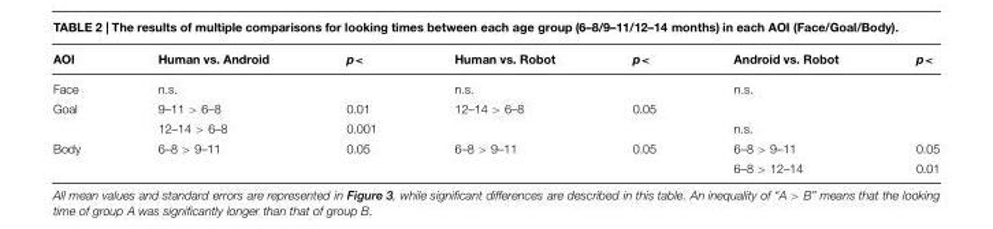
<table><thead><tr><td>AOI</td><td>Human vs. Android</td><td>p&lt;</td><td>Human vs. Robot</td><td>p&lt;</td><td>Android vs. Robot</td><td>p&lt;</td></tr></thead><tbody><tr><td>Face</td><td>n.s.</td><td></td><td>n.s.</td><td></td><td>n.s.</td><td></td></tr><tr><td rowspan="2">Goal</td><td>9–11 &gt; 6–8</td><td>0.01</td><td>12–14 &gt; 6–8</td><td>0.05</td><td></td><td></td></tr><tr><td>12–14 &gt; 6–8</td><td>0.001</td><td></td><td></td><td>n.s.</td><td></td></tr><tr><td rowspan="2">Body</td><td>6–8 &gt; 9–11</td><td>0.05</td><td>6–8 &gt; 9–11</td><td>0.05</td><td>6–8 &gt; 9–11</td><td>0.05</td></tr><tr><td></td><td></td><td></td><td></td><td>6–8 &gt; 12–14</td><td>0.01</td></tr></tbody></table>